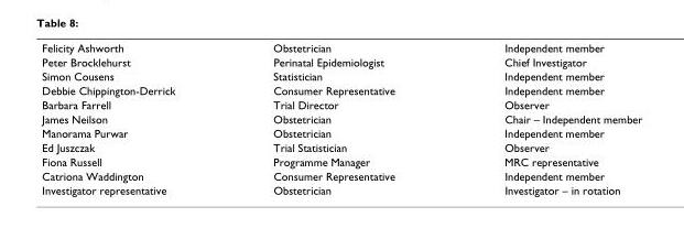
<table><tbody><tr><td>Felicity Ashworth</td><td>Obstetrician</td><td>Independent member</td></tr><tr><td>Peter Brocklehurst</td><td>Perinatal Epidemiologist</td><td>Chief Investigator</td></tr><tr><td>Simon Cousens</td><td>Statistician</td><td>Independent member</td></tr><tr><td>Debbie Chippington-Derrick</td><td>Consumer Representative</td><td>Independent member</td></tr><tr><td>Barbara Farrell</td><td>Trial Director</td><td>Observer</td></tr><tr><td>James Neilson</td><td>Obstetrician</td><td>Chair – Independent member</td></tr><tr><td>Manorama Purwar</td><td>Obstetrician</td><td>Independent member</td></tr><tr><td>Ed Juszczak</td><td>Trial Statistician</td><td>Observer</td></tr><tr><td>Fiona Russell</td><td>Programme Manager</td><td>MRC representative</td></tr><tr><td>Catriona Waddington</td><td>Consumer Representative</td><td>Independent member</td></tr><tr><td>Investigator representative</td><td>Obstetrician</td><td>Investigator – in rotation</td></tr></tbody></table>